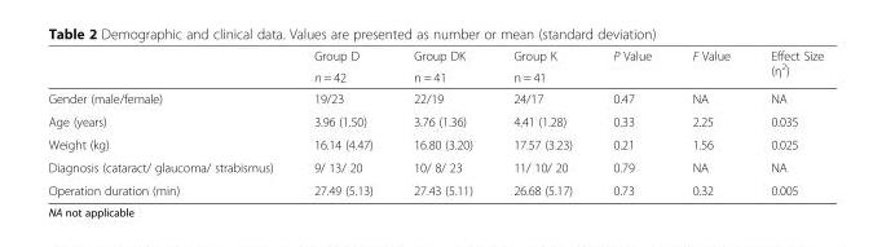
<table><thead><tr><td rowspan="2"></td><td rowspan="2">Group D n = 42</td><td rowspan="2">Group DK n = 41</td><td rowspan="2">Group K n = 41</td><td rowspan="2">P Value</td><td rowspan="2">F Value</td><td rowspan="2">Effect Size (η<sup>2</sup>)</td></tr><tr></tr></thead><tbody><tr><td>Gender (male/female)</td><td>19/23</td><td>22/19</td><td>24/17</td><td>0.47</td><td>NA</td><td>NA</td></tr><tr><td>Age (years)</td><td>3.96 (1.50)</td><td>3.76 (1.36)</td><td>4.41 (1.28)</td><td>0.33</td><td>2.25</td><td>0.035</td></tr><tr><td>Weight (kg)</td><td>16.14 (4.47)</td><td>16.80 (3.20)</td><td>17.57 (3.23)</td><td>0.21</td><td>1.56</td><td>0.025</td></tr><tr><td>Diagnosis (cataract/ glaucoma/ strabismus)</td><td>9/ 13/ 20</td><td>10/ 8/ 23</td><td>11/ 10/ 20</td><td>0.79</td><td>NA</td><td>NA</td></tr><tr><td>Operation duration (min)</td><td>27.49 (5.13)</td><td>27.43 (5.11)</td><td>26.68 (5.17)</td><td>0.73</td><td>0.32</td><td>0.005</td></tr></tbody></table>